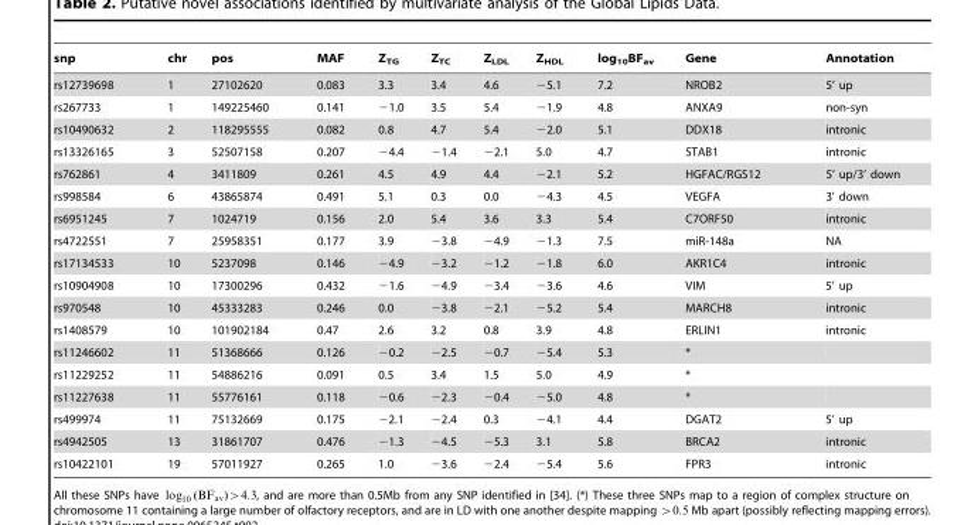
<table><thead><tr><td>snp</td><td>chr</td><td>pos</td><td>MAF</td><td>Z<sub>TG</sub></td><td>Z<sub>TC</sub></td><td>Z<sub>LDL</sub></td><td>Z<sub>HDL</sub></td><td>log<sub>10</sub>BF<sub>av</sub></td><td>Gene</td><td>Annotation</td></tr></thead><tbody><tr><td>rs12739698</td><td>1</td><td>27102620</td><td>0.083</td><td>3.3</td><td>3.4</td><td>4.6</td><td>−5.1</td><td>7.2</td><td>NROB2</td><td>5’ up</td></tr><tr><td>rs267733</td><td>1</td><td>149225460</td><td>0.141</td><td>−1.0</td><td>3.5</td><td>5.4</td><td>−1.9</td><td>4.8</td><td>ANXA9</td><td>non-syn</td></tr><tr><td>rs10490632</td><td>2</td><td>118295555</td><td>0.082</td><td>0.8</td><td>4.7</td><td>5.4</td><td>−2.0</td><td>5.1</td><td>DDX18</td><td>intronic</td></tr><tr><td>rs13326165</td><td>3</td><td>52507158</td><td>0.207</td><td>−4.4</td><td>−1.4</td><td>−2.1</td><td>5.0</td><td>4.7</td><td>STAB1</td><td>intronic</td></tr><tr><td>rs762861</td><td>4</td><td>3411809</td><td>0.261</td><td>4.5</td><td>4.9</td><td>4.4</td><td>−2.1</td><td>5.2</td><td>HGFAC/RGS12</td><td>5’ up/3’ down</td></tr><tr><td>rs998584</td><td>6</td><td>43865874</td><td>0.491</td><td>5.1</td><td>0.3</td><td>0.0</td><td>−4.3</td><td>4.5</td><td>VEGFA</td><td>3’ down</td></tr><tr><td>rs6951245</td><td>7</td><td>1024719</td><td>0.156</td><td>2.0</td><td>5.4</td><td>3.6</td><td>3.3</td><td>5.4</td><td>C7ORF50</td><td>intronic</td></tr><tr><td>rs4722551</td><td>7</td><td>25958351</td><td>0.177</td><td>3.9</td><td>−3.8</td><td>−4.9</td><td>−1.3</td><td>7.5</td><td>miR-148a</td><td>NA</td></tr><tr><td>rs17134533</td><td>10</td><td>5237098</td><td>0.146</td><td>−4.9</td><td>−3.2</td><td>−1.2</td><td>−1.8</td><td>6.0</td><td>AKR1C4</td><td>intronic</td></tr><tr><td>rs10904908</td><td>10</td><td>17300296</td><td>0.432</td><td>−1.6</td><td>−4.9</td><td>−3.4</td><td>−3.6</td><td>4.6</td><td>VIM</td><td>5’ up</td></tr><tr><td>rs970548</td><td>10</td><td>45333283</td><td>0.246</td><td>0.0</td><td>−3.8</td><td>−2.1</td><td>−5.2</td><td>5.4</td><td>MARCH8</td><td>intronic</td></tr><tr><td>rs1408579</td><td>10</td><td>101902184</td><td>0.47</td><td>2.6</td><td>3.2</td><td>0.8</td><td>3.9</td><td>4.8</td><td>ERLIN1</td><td>intronic</td></tr><tr><td>rs11246602</td><td>11</td><td>51368666</td><td>0.126</td><td>−0.2</td><td>−2.5</td><td>−0.7</td><td>−5.4</td><td>5.3</td><td>*</td><td></td></tr><tr><td>rs11229252</td><td>11</td><td>54886216</td><td>0.091</td><td>0.5</td><td>3.4</td><td>1.5</td><td>5.0</td><td>4.9</td><td>*</td><td></td></tr><tr><td>rs11227638</td><td>11</td><td>55776161</td><td>0.118</td><td>−0.6</td><td>−2.3</td><td>−0.4</td><td>−5.0</td><td>4.8</td><td>*</td><td></td></tr><tr><td>rs499974</td><td>11</td><td>75132669</td><td>0.175</td><td>−2.1</td><td>−2.4</td><td>0.3</td><td>−4.1</td><td>4.4</td><td>DGAT2</td><td>5’ up</td></tr><tr><td>rs4942505</td><td>13</td><td>31861707</td><td>0.476</td><td>−1.3</td><td>−4.5</td><td>−5.3</td><td>3.1</td><td>5.8</td><td>BRCA2</td><td>intronic</td></tr><tr><td>rs10422101</td><td>19</td><td>57011927</td><td>0.265</td><td>1.0</td><td>−3.6</td><td>−2.4</td><td>−5.4</td><td>5.6</td><td>FPR3</td><td>intronic</td></tr></tbody></table>